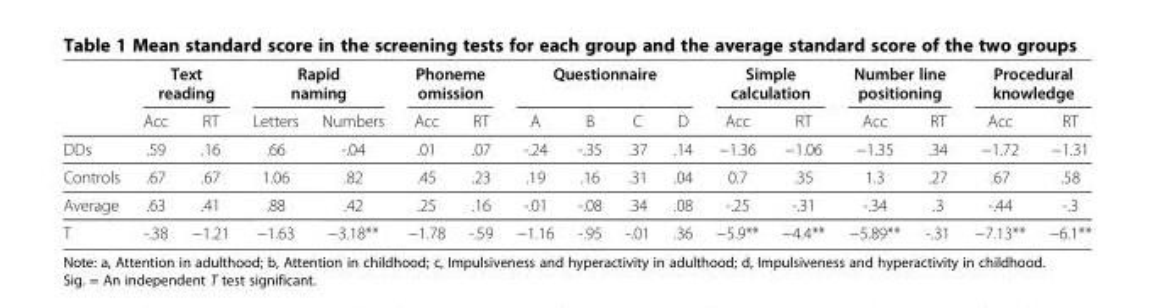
<table><thead><tr><td rowspan="2"></td><td colspan="2">Text reading</td><td colspan="2">Rapid naming</td><td colspan="2">Phoneme omission</td><td colspan="4">Questionnaire</td><td colspan="2">Simple calculation</td><td colspan="2">Number line positioning</td><td colspan="2">Procedural knowledge</td></tr><tr><td>Acc</td><td>RT</td><td>Letters</td><td>Numbers</td><td>Acc</td><td>RT</td><td>A</td><td>B</td><td>C</td><td>D</td><td>Acc</td><td>RT</td><td>Acc</td><td>RT</td><td>Acc</td><td>RT</td></tr></thead><tbody><tr><td>DDs</td><td>.59</td><td>.16</td><td>.66</td><td>-.04</td><td>.01</td><td>.07</td><td>-.24</td><td>-.35</td><td>.37</td><td>.14</td><td>−1.36</td><td>−1.06</td><td>−1.35</td><td>.34</td><td>−1.72</td><td>−1.31</td></tr><tr><td>Controls</td><td>.67</td><td>.67</td><td>1.06</td><td>.82</td><td>.45</td><td>.23</td><td>.19</td><td>.16</td><td>.31</td><td>.04</td><td>0.7</td><td>.35</td><td>1.3</td><td>.27</td><td>.67</td><td>.58</td></tr><tr><td>Average</td><td>.63</td><td>.41</td><td>.88</td><td>.42</td><td>.25</td><td>.16</td><td>-.01</td><td>-.08</td><td>.34</td><td>.08</td><td>-.25</td><td>-.31</td><td>-.34</td><td>.3</td><td>-.44</td><td>-.3</td></tr><tr><td>T</td><td>-.38</td><td>−1.21</td><td>−1.63</td><td>−3.18**</td><td>−1.78</td><td>-.59</td><td>−1.16</td><td>-.95</td><td>-.01</td><td>.36</td><td>−5.9**</td><td>−4.4**</td><td>−5.89**</td><td>-.31</td><td>−7.13**</td><td>−6.1**</td></tr></tbody></table>